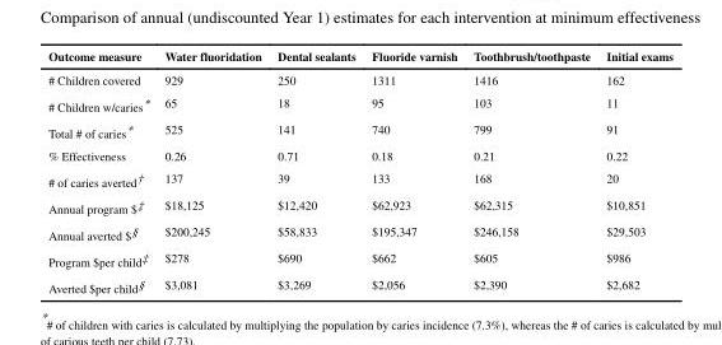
<table><thead><tr><td>Outcome measure</td><td>Water fluoridation</td><td>Dental sealants</td><td>Fluoride varnish</td><td>Toothbrush/toothpaste</td><td>Initial exams</td></tr></thead><tbody><tr><td># Children covered</td><td>929</td><td>250</td><td>1311</td><td>1416</td><td>162</td></tr><tr><td># Children w/caries*</td><td>65</td><td>18</td><td>95</td><td>103</td><td>11</td></tr><tr><td>Total # of caries*</td><td>525</td><td>141</td><td>740</td><td>799</td><td>91</td></tr><tr><td>% Effectiveness</td><td>0.26</td><td>0.71</td><td>0.18</td><td>0.21</td><td>0.22</td></tr><tr><td># of caries averted†</td><td>137</td><td>39</td><td>133</td><td>168</td><td>20</td></tr><tr><td>Annual program $‡</td><td>$18,125</td><td>$12,420</td><td>$62,923</td><td>$62,315</td><td>$10,851</td></tr><tr><td>Annual averted $§</td><td>$200,245</td><td>$58,833</td><td>$195,347</td><td>$246,158</td><td>$29,503</td></tr><tr><td>Program $per child‡</td><td>$278</td><td>$690</td><td>$662</td><td>$605</td><td>$986</td></tr><tr><td>Averted $per child§</td><td>$3,081</td><td>$3,269</td><td>$2,056</td><td>$2,390</td><td>$2,682</td></tr></tbody></table>